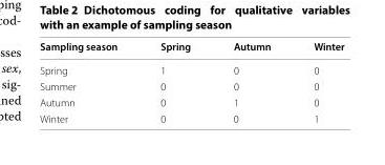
<table><thead><tr><td>Sampling season</td><td>Spring</td><td>Autumn</td><td>Winter</td></tr></thead><tbody><tr><td>Spring</td><td>1</td><td>0</td><td>0</td></tr><tr><td>Summer</td><td>0</td><td>0</td><td>0</td></tr><tr><td>Autumn</td><td>0</td><td>1</td><td>0</td></tr><tr><td>Winter</td><td>0</td><td>0</td><td>1</td></tr></tbody></table>